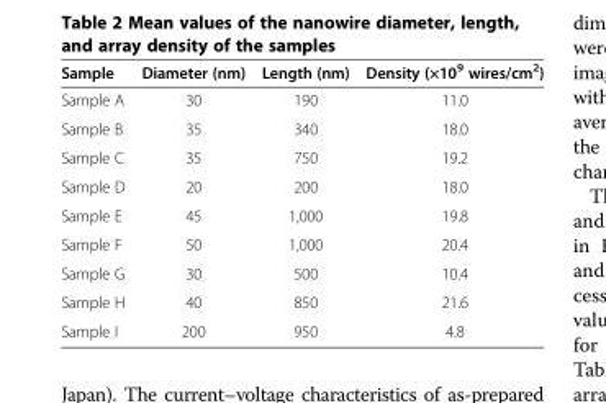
<table><thead><tr><td>Sample</td><td>Diameter (nm)</td><td>Length (nm)</td><td>Density (×10<sup>9</sup> wires/cm<sup>2</sup>)</td></tr></thead><tbody><tr><td>Sample A</td><td>30</td><td>190</td><td>11.0</td></tr><tr><td>Sample B</td><td>35</td><td>340</td><td>18.0</td></tr><tr><td>Sample C</td><td>35</td><td>750</td><td>19.2</td></tr><tr><td>Sample D</td><td>20</td><td>200</td><td>18.0</td></tr><tr><td>Sample E</td><td>45</td><td>1,000</td><td>19.8</td></tr><tr><td>Sample F</td><td>50</td><td>1,000</td><td>20.4</td></tr><tr><td>Sample G</td><td>30</td><td>500</td><td>10.4</td></tr><tr><td>Sample H</td><td>40</td><td>850</td><td>21.6</td></tr><tr><td>Sample I</td><td>200</td><td>950</td><td>4.8</td></tr></tbody></table>